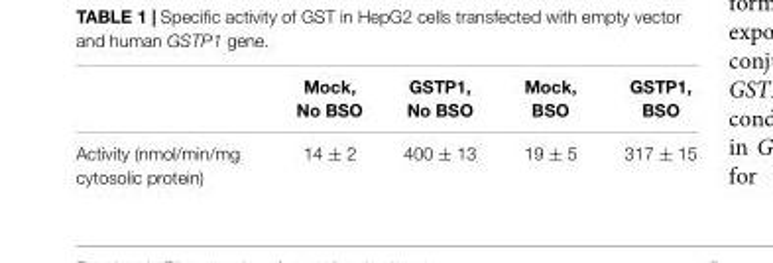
<table><thead><tr><td></td><td>Mock, No BSO</td><td>GSTP1, No BSO</td><td>Mock, BSO</td><td>GSTP1, BSO</td></tr></thead><tbody><tr><td>Activity (nmol/min/mg cytosolic protein)</td><td>14 ± 2</td><td>400 ± 13</td><td>19 ± 5</td><td>317 ± 15</td></tr></tbody></table>